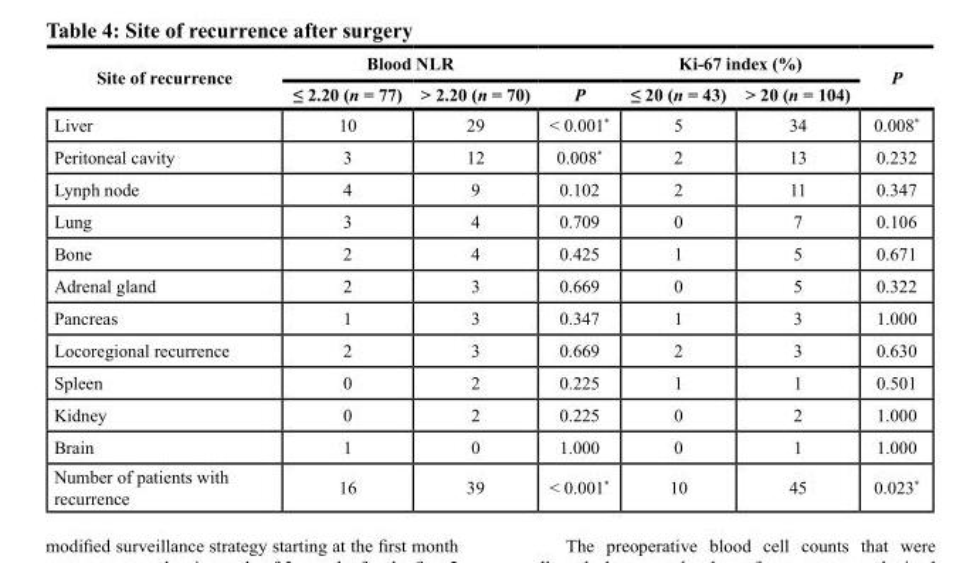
<table><thead><tr><td rowspan="2">site of recurrence</td><td colspan="2">blood nLr</td><td rowspan="2">P</td><td colspan="2">Ki-67 index (%)</td><td rowspan="2">P</td></tr><tr><td>≤ 2.20 (n = 77)</td><td>&gt; 2.20 (n = 70)</td><td>≤ 20 (n = 43)</td><td>&gt; 20 (n = 104)</td></tr></thead><tbody><tr><td>Liver</td><td>10</td><td>29</td><td>&lt; 0.001*</td><td>5</td><td>34</td><td>0.008*</td></tr><tr><td>Peritoneal cavity</td><td>3</td><td>12</td><td>0.008*</td><td>2</td><td>13</td><td>0.232</td></tr><tr><td>Lynph node</td><td>4</td><td>9</td><td>0.102</td><td>2</td><td>11</td><td>0.347</td></tr><tr><td>Lung</td><td>3</td><td>4</td><td>0.709</td><td>0</td><td>7</td><td>0.106</td></tr><tr><td>Bone</td><td>2</td><td>4</td><td>0.425</td><td>1</td><td>5</td><td>0.671</td></tr><tr><td>Adrenal gland</td><td>2</td><td>3</td><td>0.669</td><td>0</td><td>5</td><td>0.322</td></tr><tr><td>Pancreas</td><td>1</td><td>3</td><td>0.347</td><td>1</td><td>3</td><td>1.000</td></tr><tr><td>Locoregional recurrence</td><td>2</td><td>3</td><td>0.669</td><td>2</td><td>3</td><td>0.630</td></tr><tr><td>Spleen</td><td>0</td><td>2</td><td>0.225</td><td>1</td><td>1</td><td>0.501</td></tr><tr><td>Kidney</td><td>0</td><td>2</td><td>0.225</td><td>0</td><td>2</td><td>1.000</td></tr><tr><td>Brain</td><td>1</td><td>0</td><td>1.000</td><td>0</td><td>1</td><td>1.000</td></tr><tr><td>Number of patients with recurrence</td><td>16</td><td>39</td><td>&lt; 0.001*</td><td>10</td><td>45</td><td>0.023*</td></tr></tbody></table>